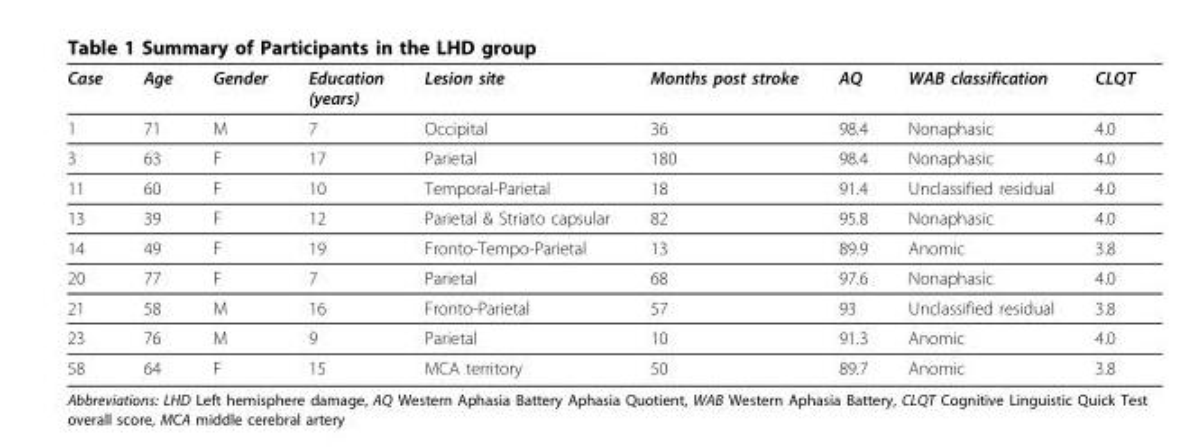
<table><thead><tr><td>Case</td><td>Age</td><td>Gender</td><td>Education (years)</td><td>Lesion site</td><td>Months post stroke</td><td>AQ</td><td>WAB classification</td><td>CLQT</td></tr></thead><tbody><tr><td>1</td><td>71</td><td>M</td><td>7</td><td>Occipital</td><td>36</td><td>98.4</td><td>Nonaphasic</td><td>4.0</td></tr><tr><td>3</td><td>63</td><td>F</td><td>17</td><td>Parietal</td><td>180</td><td>98.4</td><td>Nonaphasic</td><td>4.0</td></tr><tr><td>11</td><td>60</td><td>F</td><td>10</td><td>Temporal-Parietal</td><td>18</td><td>91.4</td><td>Unclassified residual</td><td>4.0</td></tr><tr><td>13</td><td>39</td><td>F</td><td>12</td><td>Parietal &amp; Striato capsular</td><td>82</td><td>95.8</td><td>Nonaphasic</td><td>4.0</td></tr><tr><td>14</td><td>49</td><td>F</td><td>19</td><td>Fronto-Tempo-Parietal</td><td>13</td><td>89.9</td><td>Anomic</td><td>3.8</td></tr><tr><td>20</td><td>77</td><td>F</td><td>7</td><td>Parietal</td><td>68</td><td>97.6</td><td>Nonaphasic</td><td>4.0</td></tr><tr><td>21</td><td>58</td><td>M</td><td>16</td><td>Fronto-Parietal</td><td>57</td><td>93</td><td>Unclassified residual</td><td>3.8</td></tr><tr><td>23</td><td>76</td><td>M</td><td>9</td><td>Parietal</td><td>10</td><td>91.3</td><td>Anomic</td><td>4.0</td></tr><tr><td>58</td><td>64</td><td>F</td><td>15</td><td>MCA territory</td><td>50</td><td>89.7</td><td>Anomic</td><td>3.8</td></tr></tbody></table>